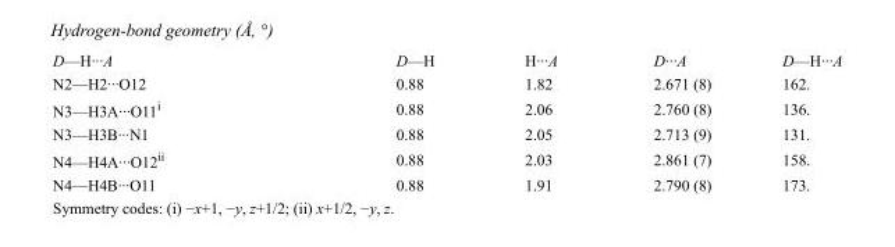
<table><tbody><tr><td>D—H···A</td><td>D—H</td><td>H···A</td><td>D···A</td><td>D—H···A</td></tr><tr><td>N2—H2···O12</td><td>0.88</td><td>1.82</td><td>2.671 (8)</td><td>162.</td></tr><tr><td>N3—H3A···O11<sup>i</sup></td><td>0.88</td><td>2.06</td><td>2.760 (8)</td><td>136.</td></tr><tr><td>N3—H3B···N1</td><td>0.88</td><td>2.05</td><td>2.713 (9)</td><td>131.</td></tr><tr><td>N4—H4A···O12<sup>ii</sup></td><td>0.88</td><td>2.03</td><td>2.861 (7)</td><td>158.</td></tr><tr><td>N4—H4B···O11</td><td>0.88</td><td>1.91</td><td>2.790 (8)</td><td>173.</td></tr></tbody></table>